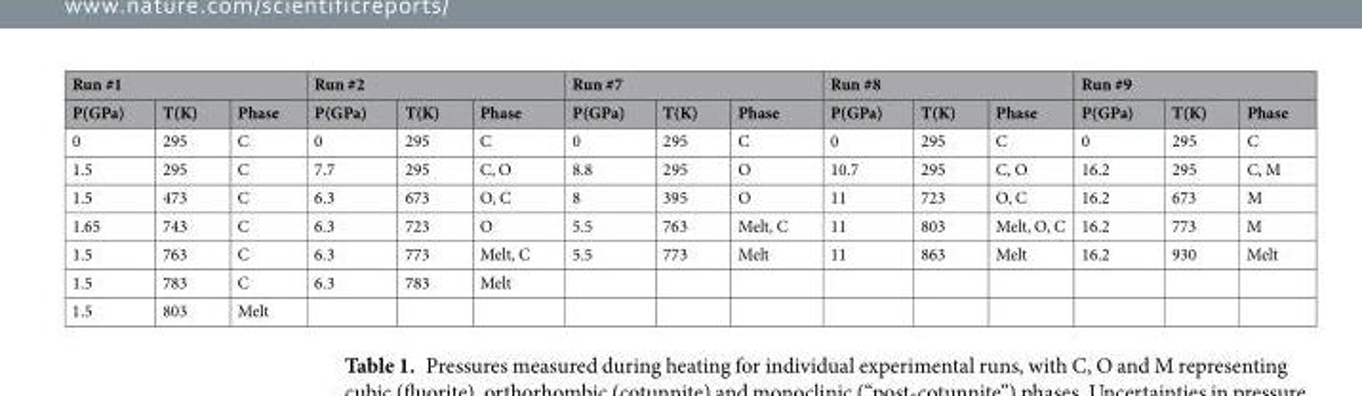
<table><thead><tr><td colspan="3">Run #1</td><td colspan="3">Run #2</td><td colspan="3">Run #7</td><td colspan="3">Run #8</td><td colspan="3">Run #9</td></tr><tr><td>P(GPa)</td><td>T(K)</td><td>Phase</td><td>P(GPa)</td><td>T(K)</td><td>Phase</td><td>P(GPa)</td><td>T(K)</td><td>Phase</td><td>P(GPa)</td><td>T(K)</td><td>Phase</td><td>P(GPa)</td><td>T(K)</td><td>Phase</td></tr></thead><tbody><tr><td>0</td><td>295</td><td>C</td><td>0</td><td>295</td><td>C</td><td>0</td><td>295</td><td>C</td><td>0</td><td>295</td><td>C</td><td>0</td><td>295</td><td>C</td></tr><tr><td>1.5</td><td>295</td><td>C</td><td>7.7</td><td>295</td><td>C, O</td><td>8.8</td><td>295</td><td>O</td><td>10.7</td><td>295</td><td>C, O</td><td>16.2</td><td>295</td><td>C, M</td></tr><tr><td>1.5</td><td>473</td><td>C</td><td>6.3</td><td>673</td><td>O, C</td><td>8</td><td>395</td><td>O</td><td>11</td><td>723</td><td>O, C</td><td>16.2</td><td>673</td><td>M</td></tr><tr><td>1.65</td><td>743</td><td>C</td><td>6.3</td><td>723</td><td>O</td><td>5.5</td><td>763</td><td>Melt, C</td><td>11</td><td>803</td><td>Melt, O, C</td><td>16.2</td><td>773</td><td>M</td></tr><tr><td>1.5</td><td>763</td><td>C</td><td>6.3</td><td>773</td><td>Melt, C</td><td>5.5</td><td>773</td><td>Melt</td><td>11</td><td>863</td><td>Melt</td><td>16.2</td><td>930</td><td>Melt</td></tr><tr><td>1.5</td><td>783</td><td>C</td><td>6.3</td><td>783</td><td>Melt</td><td></td><td></td><td></td><td></td><td></td><td></td><td></td><td></td><td></td></tr><tr><td>1.5</td><td>803</td><td>Melt</td><td></td><td></td><td></td><td></td><td></td><td></td><td></td><td></td><td></td><td></td><td></td><td></td></tr></tbody></table>